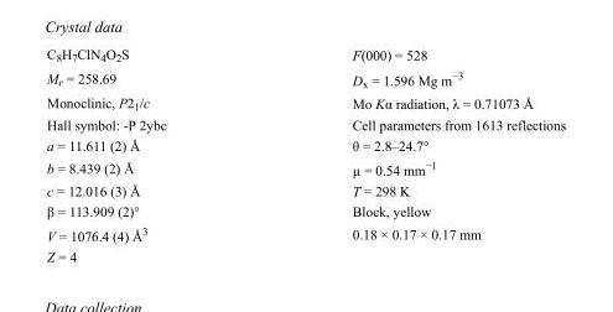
<table><tbody><tr><td>C<sub>8</sub>H<sub>7</sub>ClN<sub>4</sub>O<sub>2</sub>S</td><td>F(000) = 528</td></tr><tr><td>M<sub>r</sub> = 258.69</td><td>D<sub>x</sub> = 1.596 Mg m<sup>−3</sup></td></tr><tr><td>Monoclinic, P2<sub>1</sub>/c</td><td>Mo Kα radiation, λ = 0.71073 Å</td></tr><tr><td>Hall symbol: -P 2ybc</td><td>Cell parameters from 1613 reflections</td></tr><tr><td>a = 11.611 (2) Å</td><td>θ = 2.8–24.7°</td></tr><tr><td>b = 8.439 (2) Å</td><td>µ = 0.54 mm<sup>−1</sup></td></tr><tr><td>c = 12.016 (3) Å</td><td>T = 298 K</td></tr><tr><td>β = 113.909 (2)°</td><td>Block, yellow</td></tr><tr><td>V = 1076.4 (4) Å<sup>3</sup></td><td>0.18 × 0.17 × 0.17 mm</td></tr><tr><td>Z = 4</td><td></td></tr></tbody></table>